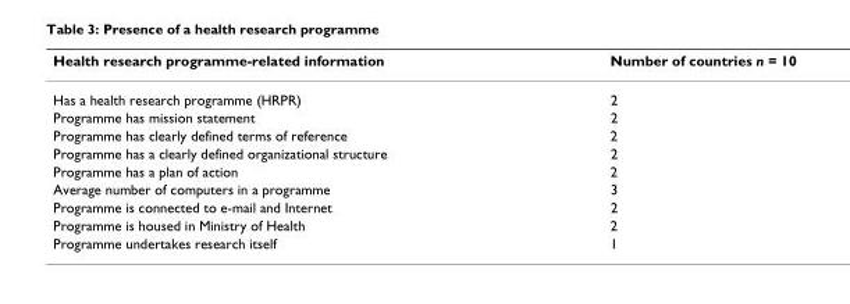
<table><thead><tr><td>Health research programme-related information</td><td>Number of countries n = 10</td></tr></thead><tbody><tr><td>Has a health research programme (HRPR)</td><td>2</td></tr><tr><td>Programme has mission statement</td><td>2</td></tr><tr><td>Programme has clearly defined terms of reference</td><td>2</td></tr><tr><td>Programme has a clearly defined organizational structure</td><td>2</td></tr><tr><td>Programme has a plan of action</td><td>2</td></tr><tr><td>Average number of computers in a programme</td><td>3</td></tr><tr><td>Programme is connected to e-mail and Internet</td><td>2</td></tr><tr><td>Programme is housed in Ministry of Health</td><td>2</td></tr><tr><td>Programme undertakes research itself</td><td>1</td></tr></tbody></table>